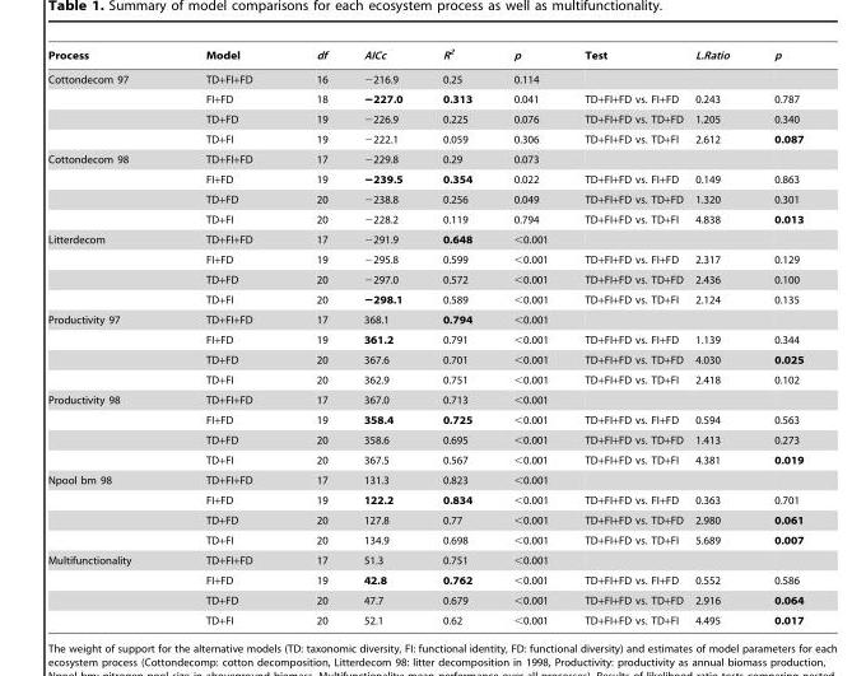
<table><thead><tr><td>Process</td><td>Model</td><td>df</td><td>AICc</td><td>R<sup>2</sup></td><td>p</td><td>Test</td><td>L.Ratio</td><td>p</td></tr></thead><tbody><tr><td rowspan="4">Cottondecom 97</td><td>TD+FI+FD</td><td>16</td><td>−216.9</td><td>0.25</td><td>0.114</td><td></td><td></td><td></td></tr><tr><td>FI+FD</td><td>18</td><td>−227.0</td><td>0.313</td><td>0.041</td><td>TD+FI+FD vs. FI+FD</td><td>0.243</td><td>0.787</td></tr><tr><td>TD+FD</td><td>19</td><td>−226.9</td><td>0.225</td><td>0.076</td><td>TD+FI+FD vs. TD+FD</td><td>1.205</td><td>0.340</td></tr><tr><td>TD+FI</td><td>19</td><td>−222.1</td><td>0.059</td><td>0.306</td><td>TD+FI+FD vs. TD+FI</td><td>2.612</td><td>0.087</td></tr><tr><td rowspan="4">Cottondecom 98</td><td>TD+FI+FD</td><td>17</td><td>−229.8</td><td>0.29</td><td>0.073</td><td></td><td></td><td></td></tr><tr><td>FI+FD</td><td>19</td><td>−239.5</td><td>0.354</td><td>0.022</td><td>TD+FI+FD vs. FI+FD</td><td>0.149</td><td>0.863</td></tr><tr><td>TD+FD</td><td>20</td><td>−238.8</td><td>0.256</td><td>0.049</td><td>TD+FI+FD vs. TD+FD</td><td>1.320</td><td>0.301</td></tr><tr><td>TD+FI</td><td>20</td><td>−228.2</td><td>0.119</td><td>0.794</td><td>TD+FI+FD vs. TD+FI</td><td>4.838</td><td>0.013</td></tr><tr><td rowspan="4">Litterdecom</td><td>TD+FI+FD</td><td>17</td><td>−291.9</td><td>0.648</td><td>&lt;0.001</td><td></td><td></td><td></td></tr><tr><td>FI+FD</td><td>19</td><td>−295.8</td><td>0.599</td><td>&lt;0.001</td><td>TD+FI+FD vs. FI+FD</td><td>2.317</td><td>0.129</td></tr><tr><td>TD+FD</td><td>20</td><td>−297.0</td><td>0.572</td><td>&lt;0.001</td><td>TD+FI+FD vs. TD+FD</td><td>2.436</td><td>0.100</td></tr><tr><td>TD+FI</td><td>20</td><td>−298.1</td><td>0.589</td><td>&lt;0.001</td><td>TD+FI+FD vs. TD+FI</td><td>2.124</td><td>0.135</td></tr><tr><td rowspan="4">Productivity 97</td><td>TD+FI+FD</td><td>17</td><td>368.1</td><td>0.794</td><td>&lt;0.001</td><td></td><td></td><td></td></tr><tr><td>FI+FD</td><td>19</td><td>361.2</td><td>0.791</td><td>&lt;0.001</td><td>TD+FI+FD vs. FI+FD</td><td>1.139</td><td>0.344</td></tr><tr><td>TD+FD</td><td>20</td><td>367.6</td><td>0.701</td><td>&lt;0.001</td><td>TD+FI+FD vs. TD+FD</td><td>4.030</td><td>0.025</td></tr><tr><td>TD+FI</td><td>20</td><td>362.9</td><td>0.751</td><td>&lt;0.001</td><td>TD+FI+FD vs. TD+FI</td><td>2.418</td><td>0.102</td></tr><tr><td rowspan="4">Productivity 98</td><td>TD+FI+FD</td><td>17</td><td>367.0</td><td>0.713</td><td>&lt;0.001</td><td></td><td></td><td></td></tr><tr><td>FI+FD</td><td>19</td><td>358.4</td><td>0.725</td><td>&lt;0.001</td><td>TD+FI+FD vs. FI+FD</td><td>0.594</td><td>0.563</td></tr><tr><td>TD+FD</td><td>20</td><td>358.6</td><td>0.695</td><td>&lt;0.001</td><td>TD+FI+FD vs. TD+FD</td><td>1.413</td><td>0.273</td></tr><tr><td>TD+FI</td><td>20</td><td>367.5</td><td>0.567</td><td>&lt;0.001</td><td>TD+FI+FD vs. TD+FI</td><td>4.381</td><td>0.019</td></tr><tr><td rowspan="4">Npool bm 98</td><td>TD+FI+FD</td><td>17</td><td>131.3</td><td>0.823</td><td>&lt;0.001</td><td></td><td></td><td></td></tr><tr><td>FI+FD</td><td>19</td><td>122.2</td><td>0.834</td><td>&lt;0.001</td><td>TD+FI+FD vs. FI+FD</td><td>0.363</td><td>0.701</td></tr><tr><td>TD+FD</td><td>20</td><td>127.8</td><td>0.77</td><td>&lt;0.001</td><td>TD+FI+FD vs. TD+FD</td><td>2.980</td><td>0.061</td></tr><tr><td>TD+FI</td><td>20</td><td>134.9</td><td>0.698</td><td>&lt;0.001</td><td>TD+FI+FD vs. TD+FI</td><td>5.689</td><td>0.007</td></tr><tr><td rowspan="4">Multifunctionality</td><td>TD+FI+FD</td><td>17</td><td>51.3</td><td>0.751</td><td>&lt;0.001</td><td></td><td></td><td></td></tr><tr><td>FI+FD</td><td>19</td><td>42.8</td><td>0.762</td><td>&lt;0.001</td><td>TD+FI+FD vs. FI+FD</td><td>0.552</td><td>0.586</td></tr><tr><td>TD+FD</td><td>20</td><td>47.7</td><td>0.679</td><td>&lt;0.001</td><td>TD+FI+FD vs. TD+FD</td><td>2.916</td><td>0.064</td></tr><tr><td>TD+FI</td><td>20</td><td>52.1</td><td>0.62</td><td>&lt;0.001</td><td>TD+FI+FD vs. TD+FI</td><td>4.495</td><td>0.017</td></tr></tbody></table>